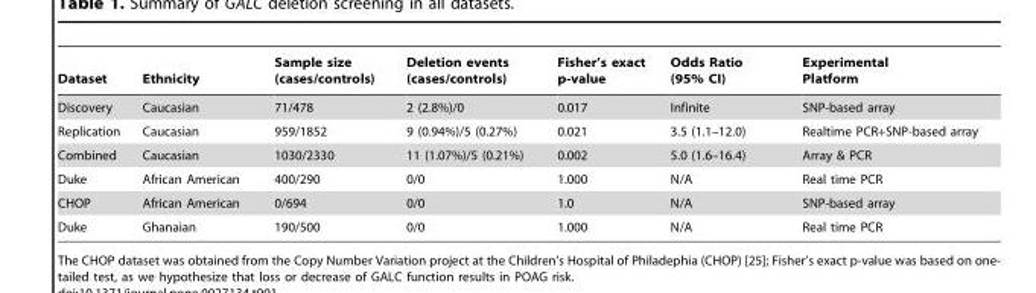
<table><thead><tr><td>Dataset</td><td>Ethnicity</td><td>Sample size (cases/controls)</td><td>Deletion events (cases/controls)</td><td>Fisher’s exact p-value</td><td>Odds Ratio (95% CI)</td><td>Experimental Platform</td></tr></thead><tbody><tr><td>Discovery</td><td>Caucasian</td><td>71/478</td><td>2 (2.8%)/0</td><td>0.017</td><td>Infinite</td><td>SNP-based array</td></tr><tr><td>Replication</td><td>Caucasian</td><td>959/1852</td><td>9 (0.94%)/5 (0.27%)</td><td>0.021</td><td>3.5 (1.1–12.0)</td><td>Realtime PCR+SNP-based array</td></tr><tr><td>Combined</td><td>Caucasian</td><td>1030/2330</td><td>11 (1.07%)/5 (0.21%)</td><td>0.002</td><td>5.0 (1.6–16.4)</td><td>Array &amp; PCR</td></tr><tr><td>Duke</td><td>African American</td><td>400/290</td><td>0/0</td><td>1.000</td><td>N/A</td><td>Real time PCR</td></tr><tr><td>CHOP</td><td>African American</td><td>0/694</td><td>0/0</td><td>1.0</td><td>N/A</td><td>SNP-based array</td></tr><tr><td>Duke</td><td>Ghanaian</td><td>190/500</td><td>0/0</td><td>1.000</td><td>N/A</td><td>Real time PCR</td></tr></tbody></table>